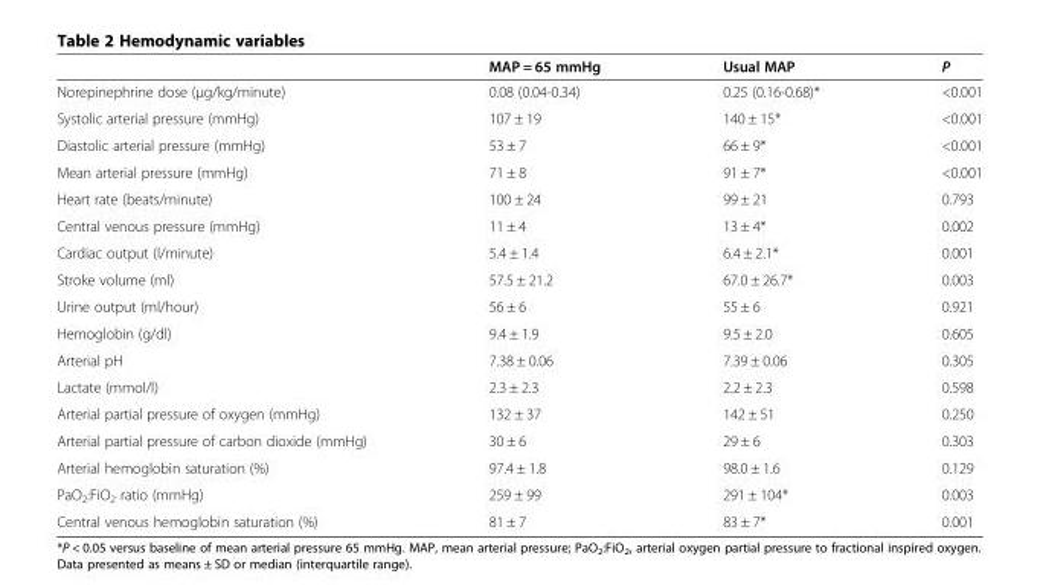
<table><thead><tr><td></td><td>MAP = 65 mmHg</td><td>Usual MAP</td><td>P</td></tr></thead><tbody><tr><td>Norepinephrine dose (μg/kg/minute)</td><td>0.08 (0.04-0.34)</td><td>0.25 (0.16-0.68)*</td><td>&lt;0.001</td></tr><tr><td>Systolic arterial pressure (mmHg)</td><td>107 ± 19</td><td>140 ± 15*</td><td>&lt;0.001</td></tr><tr><td>Diastolic arterial pressure (mmHg)</td><td>53 ± 7</td><td>66 ± 9*</td><td>&lt;0.001</td></tr><tr><td>Mean arterial pressure (mmHg)</td><td>71 ± 8</td><td>91 ± 7*</td><td>&lt;0.001</td></tr><tr><td>Heart rate (beats/minute)</td><td>100 ± 24</td><td>99 ± 21</td><td>0.793</td></tr><tr><td>Central venous pressure (mmHg)</td><td>11 ± 4</td><td>13 ± 4*</td><td>0.002</td></tr><tr><td>Cardiac output (l/minute)</td><td>5.4 ± 1.4</td><td>6.4 ± 2.1*</td><td>0.001</td></tr><tr><td>Stroke volume (ml)</td><td>57.5 ± 21.2</td><td>67.0 ± 26.7*</td><td>0.003</td></tr><tr><td>Urine output (ml/hour)</td><td>56 ± 6</td><td>55 ± 6</td><td>0.921</td></tr><tr><td>Hemoglobin (g/dl)</td><td>9.4 ± 1.9</td><td>9.5 ± 2.0</td><td>0.605</td></tr><tr><td>Arterial pH</td><td>7.38 ± 0.06</td><td>7.39 ± 0.06</td><td>0.305</td></tr><tr><td>Lactate (mmol/l)</td><td>2.3 ± 2.3</td><td>2.2 ± 2.3</td><td>0.598</td></tr><tr><td>Arterial partial pressure of oxygen (mmHg)</td><td>132 ± 37</td><td>142 ± 51</td><td>0.250</td></tr><tr><td>Arterial partial pressure of carbon dioxide (mmHg)</td><td>30 ± 6</td><td>29 ± 6</td><td>0.303</td></tr><tr><td>Arterial hemoglobin saturation (%)</td><td>97.4 ± 1.8</td><td>98.0 ± 1.6</td><td>0.129</td></tr><tr><td>PaO<sub>2</sub>:FiO<sub>2</sub> ratio (mmHg)</td><td>259 ± 99</td><td>291 ± 104*</td><td>0.003</td></tr><tr><td>Central venous hemoglobin saturation (%)</td><td>81 ± 7</td><td>83 ± 7*</td><td>0.001</td></tr></tbody></table>